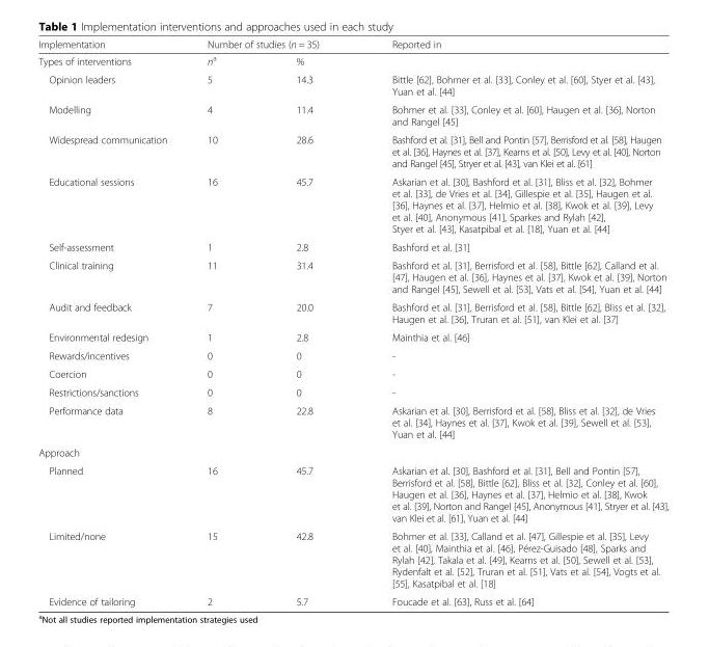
<table><thead><tr><td rowspan="2">Implementation Types of interventions</td><td colspan="2">Number of studies (n = 35)</td><td rowspan="2">Reported in</td></tr><tr><td>n<sup>a</sup></td><td>%</td></tr></thead><tbody><tr><td>Opinion leaders</td><td>5</td><td>14.3</td><td>Bittle [62], Bohmer et al. [33], Conley et al. [60], Styer et al. [43], Yuan et al. [44]</td></tr><tr><td>Modelling</td><td>4</td><td>11.4</td><td>Bohmer et al. [33], Conley et al. [60], Haugen et al. [36], Norton and Rangel [45]</td></tr><tr><td>Widespread communication</td><td>10</td><td>28.6</td><td>Bashford et al. [31], Bell and Pontin [57], Berrisford et al. [58], Haugen et al. [36], Haynes et al. [37], Kearns et al. [50], Levy et al. [40], Norton and Rangel [45], Stryer et al. [43], van Klei et al. [61]</td></tr><tr><td>Educational sessions</td><td>16</td><td>45.7</td><td>Askarian et al. [30], Bashford et al. [31], Bliss et al. [32], Bohmer et al. [33], de Vries et al. [34], Gillespie et al. [35], Haugen et al. [36], Haynes et al. [37], Helmio et al. [38], Kwok et al. [39], Levy et al. [40], Anonymous [41], Sparkes and Rylah [42], Styer et al. [43], Kasatpibal et al. [18], Yuan et al. [44]</td></tr><tr><td>Self-assessment</td><td>1</td><td>2.8</td><td>Bashford et al. [31]</td></tr><tr><td>Clinical training</td><td>11</td><td>31.4</td><td>Bashford et al. [31], Berrisford et al. [58], Bittle [62], Calland et al. [47], Haugen et al. [36], Haynes et al. [37], Kwok et al. [39], Norton and Rangel [45], Sewell et al. [53], Vats et al. [54], Yuan et al. [44]</td></tr><tr><td>Audit and feedback</td><td>7</td><td>20.0</td><td>Bashford et al. [31], Berrisford et al. [58], Bittle [62], Bliss et al. [32], Haugen et al. [36], Truran et al. [51], van Klei et al. [37]</td></tr><tr><td>Environmental redesign</td><td>1</td><td>2.8</td><td>Mainthia et al. [46]</td></tr><tr><td>Rewards/incentives</td><td>0</td><td>0</td><td>-</td></tr><tr><td>Coercion</td><td>0</td><td>0</td><td>-</td></tr><tr><td>Restrictions/sanctions</td><td>0</td><td>0</td><td>-</td></tr><tr><td>Performance data</td><td>8</td><td>22.8</td><td>Askarian et al. [30], Berrisford et al. [58], Bliss et al. [32], de Vries et al. [34], Haynes et al. [37], Kwok et al. [39], Sewell et al. [53], Yuan et al. [44]</td></tr><tr><td colspan="4">Approach</td></tr><tr><td>Planned</td><td>16</td><td>45.7</td><td>Askarian et al. [30], Bashford et al. [31], Bell and Pontin [57], Berrisford et al. [58], Bittle [62], Bliss et al. [32], Conley et al. [60], Haugen et al. [36], Haynes et al. [37], Helmio et al. [38], Kwok et al. [39], Norton and Rangel [45], Anonymous [41], Stryer et al. [43], van Klei et al. [61], Yuan et al. [44]</td></tr><tr><td>Limited/none</td><td>15</td><td>42.8</td><td>Bohmer et al. [33], Calland et al. [47], Gillespie et al. [35], Levy et al. [40], Mainthia et al. [46], Pérez-Guisado [48], Sparks and Rylah [42], Takala et al. [49], Kearns et al. [50], Sewell et al. [53], Rydenfalt et al. [52], Truran et al. [51], Vats et al. [54], Vogts et al. [55], Kasatpibal et al. [18]</td></tr><tr><td>Evidence of tailoring</td><td>2</td><td>5.7</td><td>Foucade et al. [63], Russ et al. [64]</td></tr></tbody></table>